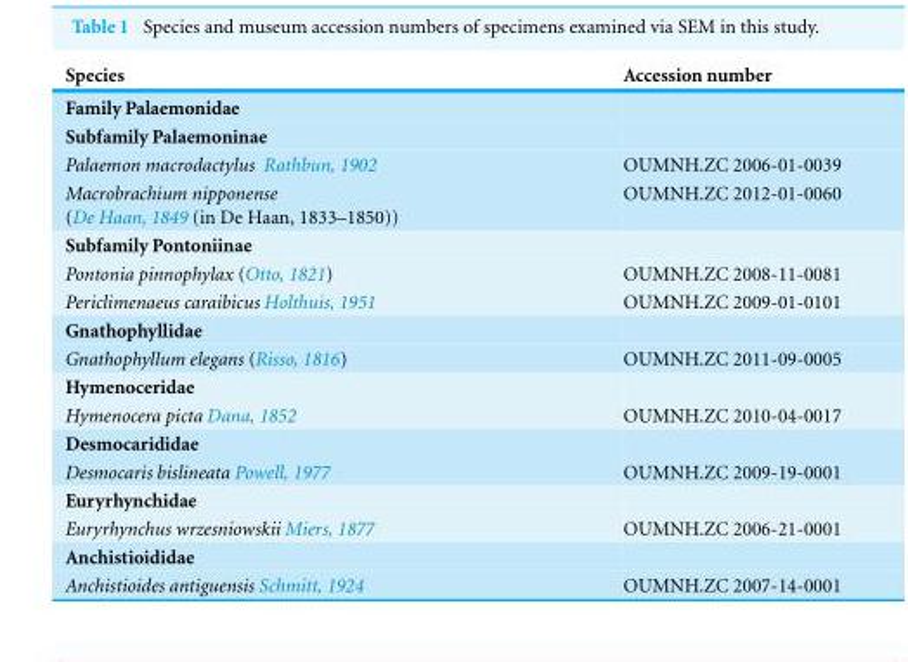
<table><thead><tr><td>Species</td><td>Accession number</td></tr></thead><tbody><tr><td colspan="2">Family Palaemonidae</td></tr><tr><td colspan="2">Subfamily Palaemoninae</td></tr><tr><td>Palaemon macrodactylus Rathbun, 1902</td><td>OUMNH.ZC 2006-01-0039</td></tr><tr><td>Macrobrachium nipponense (De Haan, 1849 (in De Haan, 1833–1850))</td><td>OUMNH.ZC 2012-01-0060</td></tr><tr><td colspan="2">Subfamily Pontoniinae</td></tr><tr><td>Pontonia pinnophylax (Otto, 1821)</td><td>OUMNH.ZC 2008-11-0081</td></tr><tr><td>Periclimenaeus caraibicus Holthuis, 1951</td><td>OUMNH.ZC 2009-01-0101</td></tr><tr><td colspan="2">Gnathophyllidae</td></tr><tr><td>Gnathophyllum elegans (Risso, 1816)</td><td>OUMNH.ZC 2011-09-0005</td></tr><tr><td colspan="2">Hymenoceridae</td></tr><tr><td>Hymenocera picta Dana, 1852</td><td>OUMNH.ZC 2010-04-0017</td></tr><tr><td colspan="2">Desmocarididae</td></tr><tr><td>Desmocaris bislineata Powell, 1977</td><td>OUMNH.ZC 2009-19-0001</td></tr><tr><td colspan="2">Euryrhynchidae</td></tr><tr><td>Euryrhynchus wrzesniowskii Miers, 1877</td><td>OUMNH.ZC 2006-21-0001</td></tr><tr><td colspan="2">Anchistioididae</td></tr><tr><td>Anchistioides antiguensis Schmitt, 1924</td><td>OUMNH.ZC 2007-14-0001</td></tr></tbody></table>